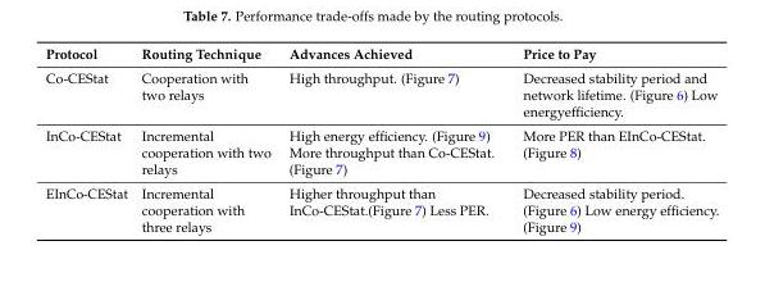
<table><thead><tr><td>Protocol</td><td>Routing Technique</td><td>Advances Achieved</td><td>Price to Pay</td></tr></thead><tbody><tr><td>Co-CEStat</td><td>Cooperation with two relays</td><td>High throughput. (Figure 7)</td><td>Decreased stability period and network lifetime. (Figure 6) Low energyefficiency.</td></tr><tr><td>InCo-CEStat</td><td>Incremental cooperation with two relays</td><td>High energy efficiency. (Figure 9) More throughput than Co-CEStat. (Figure 7)</td><td>More PER than EInCo-CEStat. (Figure 8)</td></tr><tr><td>EInCo-CEStat</td><td>Incremental cooperation with three relays</td><td>Higher throughput than InCo-CEStat.(Figure 7) Less PER.</td><td>Decreased stability period. (Figure 6) Low energy efficiency. (Figure 9)</td></tr></tbody></table>